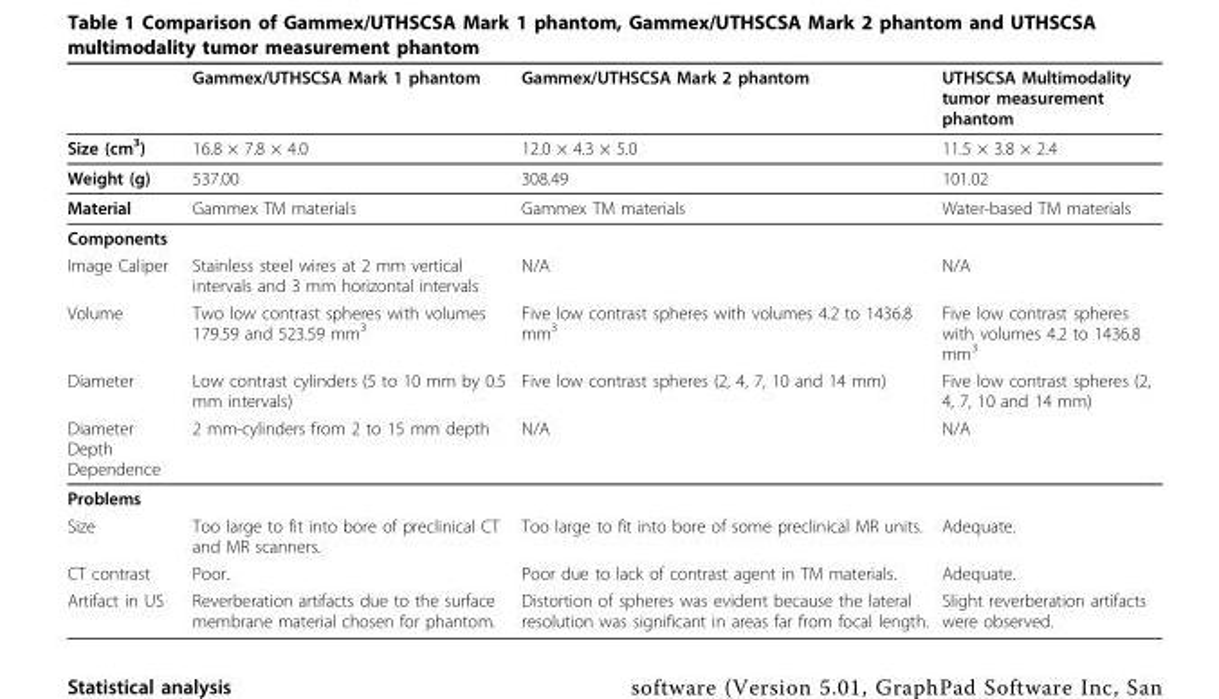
<table><thead><tr><td></td><td>Gammex/UTHSCSA Mark 1 phantom</td><td>Gammex/UTHSCSA Mark 2 phantom</td><td>UTHSCSA Multimodality tumor measurement phantom</td></tr></thead><tbody><tr><td>Size (cm<sup>3</sup>)</td><td>16.8 × 7.8 × 4.0</td><td>12.0 × 4.3 × 5.0</td><td>11.5 × 3.8 × 2.4</td></tr><tr><td>Weight (g)</td><td>537.00</td><td>308.49</td><td>101.02</td></tr><tr><td>Material</td><td>Gammex TM materials</td><td>Gammex TM materials</td><td>Water-based TM materials</td></tr><tr><td colspan="4">Components</td></tr><tr><td>Image Caliper</td><td>Stainless steel wires at 2 mm vertical intervals and 3 mm horizontal intervals</td><td>N/A</td><td>N/A</td></tr><tr><td>Volume</td><td>Two low contrast spheres with volumes 179.59 and 523.59 mm<sup>3</sup></td><td>Five low contrast spheres with volumes 4.2 to 1436.8 mm<sup>3</sup></td><td>Five low contrast spheres with volumes 4.2 to 1436.8 mm<sup>3</sup></td></tr><tr><td>Diameter</td><td>Low contrast cylinders (5 to 10 mm by 0.5 mm intervals)</td><td>Five low contrast spheres (2, 4, 7, 10 and 14 mm)</td><td>Five low contrast spheres (2, 4, 7, 10 and 14 mm)</td></tr><tr><td>Diameter Depth Dependence</td><td>2 mm-cylinders from 2 to 15 mm depth</td><td>N/A</td><td>N/A</td></tr><tr><td colspan="4">Problems</td></tr><tr><td>Size</td><td>Too large to fit into bore of preclinical CT and MR scanners.</td><td>Too large to fit into bore of some preclinical MR units.</td><td>Adequate.</td></tr><tr><td>CT contrast</td><td>Poor.</td><td>Poor due to lack of contrast agent in TM materials.</td><td>Adequate.</td></tr><tr><td>Artifact in US</td><td>Reverberation artifacts due to the surface membrane material chosen for phantom.</td><td>Distortion of spheres was evident because the lateral resolution was significant in areas far from focal length.</td><td>Slight reverberation artifacts were observed.</td></tr></tbody></table>